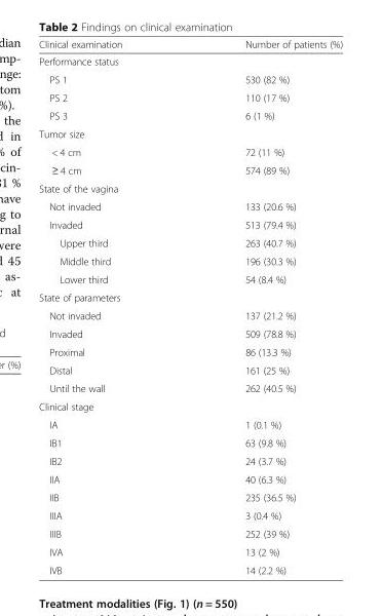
<table><thead><tr><td>Clinical examination</td><td>Number of patients (%)</td></tr></thead><tbody><tr><td colspan="2">Performance status</td></tr><tr><td>PS 1</td><td>530 (82 %)</td></tr><tr><td>PS 2</td><td>110 (17 %)</td></tr><tr><td>PS 3</td><td>6 (1 %)</td></tr><tr><td colspan="2">Tumor size</td></tr><tr><td>&lt; 4 cm</td><td>72 (11 %)</td></tr><tr><td>≥ 4 cm</td><td>574 (89 %)</td></tr><tr><td colspan="2">State of the vagina</td></tr><tr><td>Not invaded</td><td>133 (20.6 %)</td></tr><tr><td>Invaded</td><td>513 (79.4 %)</td></tr><tr><td>Upper third</td><td>263 (40.7 %)</td></tr><tr><td>Middle third</td><td>196 (30.3 %)</td></tr><tr><td>Lower third</td><td>54 (8.4 %)</td></tr><tr><td colspan="2">State of parameters</td></tr><tr><td>Not invaded</td><td>137 (21.2 %)</td></tr><tr><td>Invaded</td><td>509 (78.8 %)</td></tr><tr><td>Proximal</td><td>86 (13.3 %)</td></tr><tr><td>Distal</td><td>161 (25 %)</td></tr><tr><td>Until the wall</td><td>262 (40.5 %)</td></tr><tr><td colspan="2">Clinical stage</td></tr><tr><td>IA</td><td>1 (0.1 %)</td></tr><tr><td>IB1</td><td>63 (9.8 %)</td></tr><tr><td>IB2</td><td>24 (3.7 %)</td></tr><tr><td>IIA</td><td>40 (6.3 %)</td></tr><tr><td>IIB</td><td>235 (36.5 %)</td></tr><tr><td>IIIA</td><td>3 (0.4 %)</td></tr><tr><td>IIIB</td><td>252 (39 %)</td></tr><tr><td>IVA</td><td>13 (2 %)</td></tr><tr><td>IVB</td><td>14 (2.2 %)</td></tr></tbody></table>